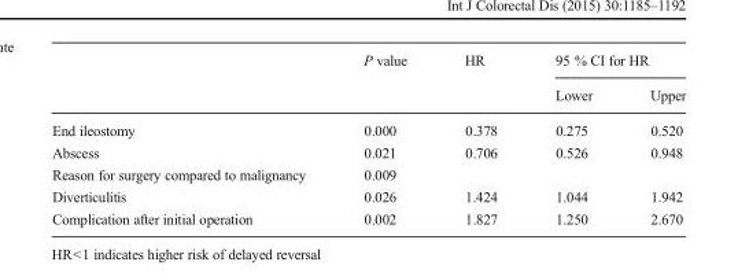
<table><thead><tr><td rowspan="2"></td><td rowspan="2">P value</td><td rowspan="2">HR</td><td colspan="2">95 % CI for HR</td></tr><tr><td>Lower</td><td>Upper</td></tr></thead><tbody><tr><td>End ileostomy</td><td>0.000</td><td>0.378</td><td>0.275</td><td>0.520</td></tr><tr><td>Abscess</td><td>0.021</td><td>0.706</td><td>0.526</td><td>0.948</td></tr><tr><td>Reason for surgery compared to malignancy</td><td colspan="4">0.009</td></tr><tr><td>Diverticulitis</td><td>0.026</td><td>1.424</td><td>1.044</td><td>1.942</td></tr><tr><td>Complication after initial operation</td><td>0.002</td><td>1.827</td><td>1.250</td><td>2.670</td></tr></tbody></table>